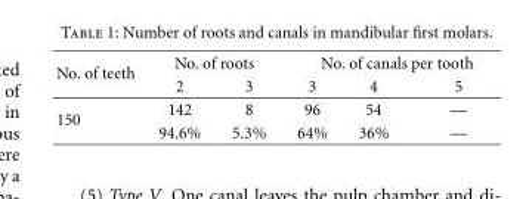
<table><thead><tr><td rowspan="2">No. of teeth</td><td colspan="2">No. of roots</td><td colspan="3">No. of canals per tooth</td></tr><tr><td>2</td><td>3</td><td>3</td><td>4</td><td>5</td></tr></thead><tbody><tr><td rowspan="2">150</td><td>142</td><td>8</td><td>96</td><td>54</td><td>—</td></tr><tr><td>94.6%</td><td>5.3%</td><td>64%</td><td>36%</td><td>—</td></tr></tbody></table>